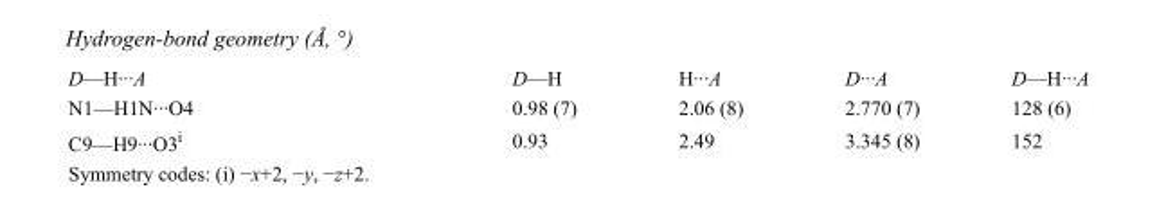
<table><tbody><tr><td>D—H···A</td><td>D—H</td><td>H···A</td><td>D···A</td><td>D—H···A</td></tr><tr><td>N1—H1N···O4</td><td>0.98 (7)</td><td>2.06 (8)</td><td>2.770 (7)</td><td>128 (6)</td></tr><tr><td>C9—H9···O3<sup>i</sup></td><td>0.93</td><td>2.49</td><td>3.345 (8)</td><td>152</td></tr></tbody></table>